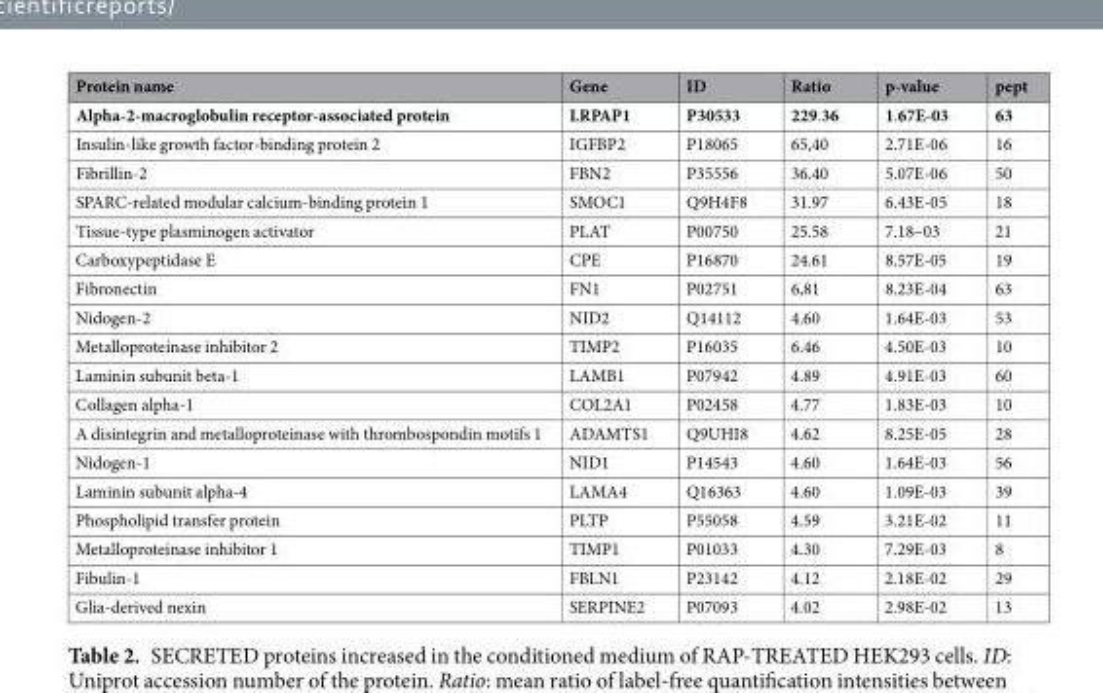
<table><thead><tr><td>Protein name</td><td>Gene</td><td>ID</td><td>Ratio</td><td>p-value</td><td>pept</td></tr></thead><tbody><tr><td>Alpha-2-macroglobulin receptor-associated protein</td><td>LRPAP1</td><td>P30533</td><td>229.36</td><td>1.67E-03</td><td>63</td></tr><tr><td>Insulin-like growth factor-binding protein 2</td><td>IGFBP2</td><td>P18065</td><td>65,40</td><td>2.71E-06</td><td>16</td></tr><tr><td>Fibrillin-2</td><td>FBN2</td><td>P35556</td><td>36.40</td><td>5.07E-06</td><td>50</td></tr><tr><td>SPARC-related modular calcium-binding protein 1</td><td>SMOC1</td><td>Q9H4F8</td><td>31.97</td><td>6.43E-05</td><td>18</td></tr><tr><td>Tissue-type plasminogen activator</td><td>PLAT</td><td>P00750</td><td>25.58</td><td>7.18–03</td><td>21</td></tr><tr><td>Carboxypeptidase E</td><td>CPE</td><td>P16870</td><td>24.61</td><td>8.57E-05</td><td>19</td></tr><tr><td>Fibronectin</td><td>FN1</td><td>P02751</td><td>6,81</td><td>8.23E-04</td><td>63</td></tr><tr><td>Nidogen-2</td><td>NID2</td><td>Q14112</td><td>4.60</td><td>1.64E-03</td><td>53</td></tr><tr><td>Metalloproteinase inhibitor 2</td><td>TIMP2</td><td>P16035</td><td>6.46</td><td>4.50E-03</td><td>10</td></tr><tr><td>Laminin subunit beta-1</td><td>LAMB1</td><td>P07942</td><td>4.89</td><td>4.91E-03</td><td>60</td></tr><tr><td>Collagen alpha-1</td><td>COL2A1</td><td>P02458</td><td>4.77</td><td>1.83E-03</td><td>10</td></tr><tr><td>A disintegrin and metalloproteinase with thrombospondin motifs 1</td><td>ADAMTS1</td><td>Q9UHI8</td><td>4.62</td><td>8.25E-05</td><td>28</td></tr><tr><td>Nidogen-1</td><td>NID1</td><td>P14543</td><td>4.60</td><td>1.64E-03</td><td>56</td></tr><tr><td>Laminin subunit alpha-4</td><td>LAMA4</td><td>Q16363</td><td>4.60</td><td>1.09E-03</td><td>39</td></tr><tr><td>Phospholipid transfer protein</td><td>PLTP</td><td>P55058</td><td>4.59</td><td>3.21E-02</td><td>11</td></tr><tr><td>Metalloproteinase inhibitor 1</td><td>TIMP1</td><td>P01033</td><td>4.30</td><td>7.29E-03</td><td>8</td></tr><tr><td>Fibulin-1</td><td>FBLN1</td><td>P23142</td><td>4.12</td><td>2.18E-02</td><td>29</td></tr><tr><td>Glia-derived nexin</td><td>SERPINE2</td><td>P07093</td><td>4.02</td><td>2.98E-02</td><td>13</td></tr></tbody></table>